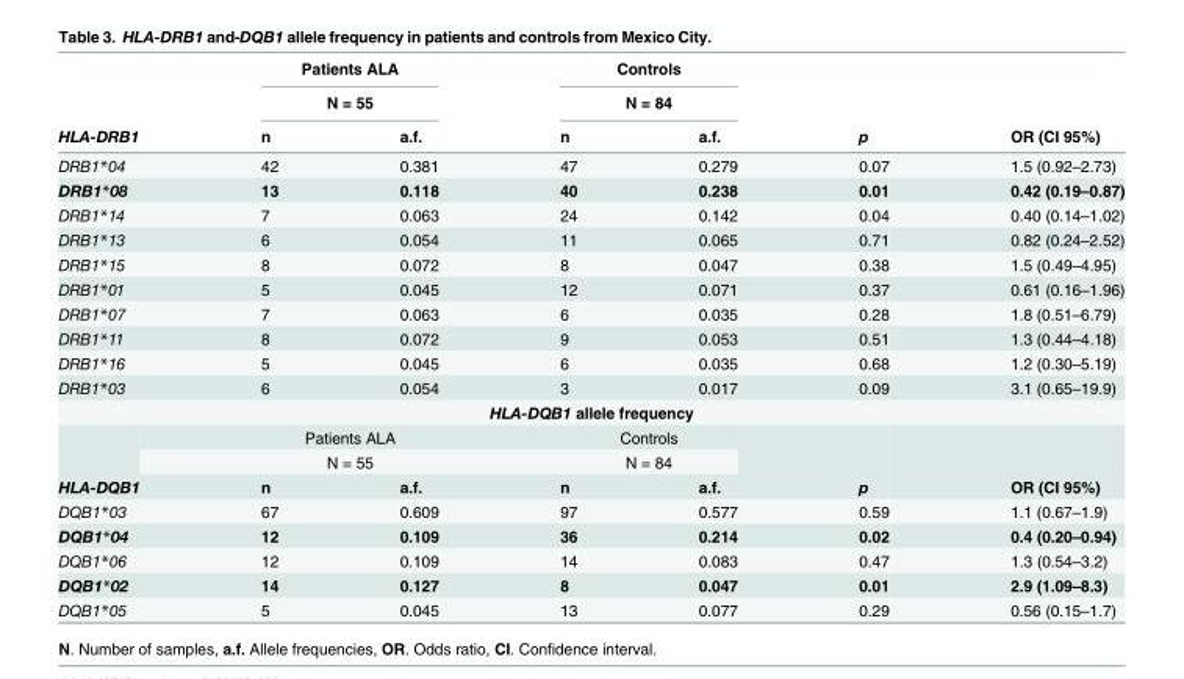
<table><thead><tr><td rowspan="3">HLA-DRB1</td><td rowspan="2" colspan="2">Patients ALA N = 55</td><td rowspan="2" colspan="2">Controls N = 84</td><td rowspan="3">p</td><td rowspan="3">OR (CI 95%)</td></tr><tr></tr><tr><td>n</td><td>a.f.</td><td>n</td><td>a.f.</td></tr></thead><tbody><tr><td>DRB1*04</td><td>42</td><td>0.381</td><td>47</td><td>0.279</td><td>0.07</td><td>1.5 (0.92–2.73)</td></tr><tr><td>DRB1*08</td><td>13</td><td>0.118</td><td>40</td><td>0.238</td><td>0.01</td><td>0.42 (0.19–0.87)</td></tr><tr><td>DRB1*14</td><td>7</td><td>0.063</td><td>24</td><td>0.142</td><td>0.04</td><td>0.40 (0.14–1.02)</td></tr><tr><td>DRB1*13</td><td>6</td><td>0.054</td><td>11</td><td>0.065</td><td>0.71</td><td>0.82 (0.24–2.52)</td></tr><tr><td>DRB1*15</td><td>8</td><td>0.072</td><td>8</td><td>0.047</td><td>0.38</td><td>1.5 (0.49–4.95)</td></tr><tr><td>DRB1*01</td><td>5</td><td>0.045</td><td>12</td><td>0.071</td><td>0.37</td><td>0.61 (0.16–1.96)</td></tr><tr><td>DRB1*07</td><td>7</td><td>0.063</td><td>6</td><td>0.035</td><td>0.28</td><td>1.8 (0.51–6.79)</td></tr><tr><td>DRB1*11</td><td>8</td><td>0.072</td><td>9</td><td>0.053</td><td>0.51</td><td>1.3 (0.44–4.18)</td></tr><tr><td>DRB1*16</td><td>5</td><td>0.045</td><td>6</td><td>0.035</td><td>0.68</td><td>1.2 (0.30–5.19)</td></tr><tr><td>DRB1*03</td><td>6</td><td>0.054</td><td>3</td><td>0.017</td><td>0.09</td><td>3.1 (0.65–19.9)</td></tr><tr><td colspan="7">HLA-DQB1 allele frequency</td></tr><tr><td rowspan="2"></td><td colspan="2">Patients ALA</td><td colspan="2">Controls</td><td rowspan="2"></td><td rowspan="2"></td></tr><tr><td colspan="2">N = 55</td><td colspan="2">N = 84</td></tr><tr><td>HLA-DQB1</td><td>n</td><td>a.f.</td><td>n</td><td>a.f.</td><td>p</td><td>OR (CI 95%)</td></tr><tr><td>DQB1*03</td><td>67</td><td>0.609</td><td>97</td><td>0.577</td><td>0.59</td><td>1.1 (0.67–1.9)</td></tr><tr><td>DQB1*04</td><td>12</td><td>0.109</td><td>36</td><td>0.214</td><td>0.02</td><td>0.4 (0.20–0.94)</td></tr><tr><td>DQB1*06</td><td>12</td><td>0.109</td><td>14</td><td>0.083</td><td>0.47</td><td>1.3 (0.54–3.2)</td></tr><tr><td>DQB1*02</td><td>14</td><td>0.127</td><td>8</td><td>0.047</td><td>0.01</td><td>2.9 (1.09–8.3)</td></tr><tr><td>DQB1*05</td><td>5</td><td>0.045</td><td>13</td><td>0.077</td><td>0.29</td><td>0.56 (0.15–1.7)</td></tr></tbody></table>